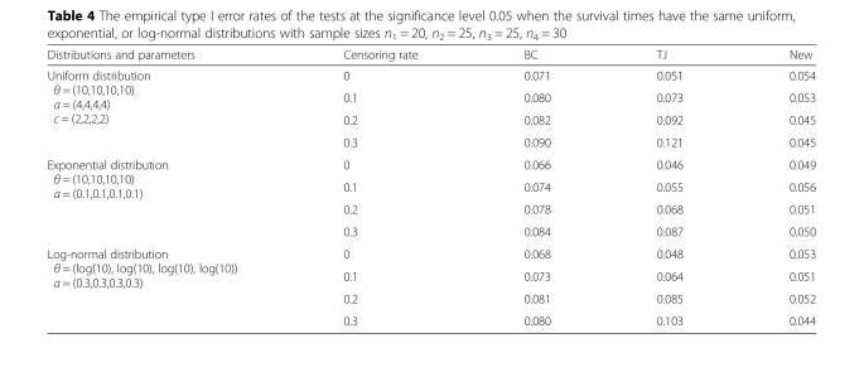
<table><thead><tr><td>Distributions and parameters</td><td>Censoring rate</td><td>BC</td><td>TJ</td><td>New</td></tr></thead><tbody><tr><td rowspan="4">Uniform distribution θ = (10,10,10,10) a = (4,4,4,4) c = (2,2,2,2)</td><td>0</td><td>0.071</td><td>0.051</td><td>0.054</td></tr><tr><td>0.1</td><td>0.080</td><td>0.073</td><td>0.053</td></tr><tr><td>0.2</td><td>0.082</td><td>0.092</td><td>0.045</td></tr><tr><td>0.3</td><td>0.090</td><td>0.121</td><td>0.045</td></tr><tr><td rowspan="4">Exponential distribution θ = (10,10,10,10) a = (0.1,0.1,0.1,0.1)</td><td>0</td><td>0.066</td><td>0.046</td><td>0.049</td></tr><tr><td>0.1</td><td>0.074</td><td>0.055</td><td>0.056</td></tr><tr><td>0.2</td><td>0.078</td><td>0.068</td><td>0.051</td></tr><tr><td>0.3</td><td>0.084</td><td>0.087</td><td>0.050</td></tr><tr><td rowspan="4">Log-normal distribution θ = (log(10), log(10), log(10), log(10)) a = (0.3,0.3,0.3,0.3)</td><td>0</td><td>0.068</td><td>0.048</td><td>0.053</td></tr><tr><td>0.1</td><td>0.073</td><td>0.064</td><td>0.051</td></tr><tr><td>0.2</td><td>0.081</td><td>0.085</td><td>0.052</td></tr><tr><td>0.3</td><td>0.080</td><td>0.103</td><td>0.044</td></tr></tbody></table>